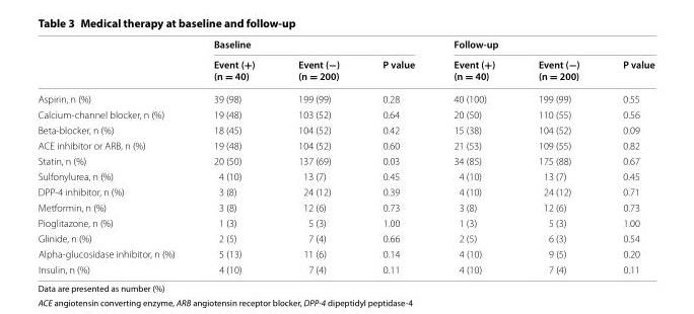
<table><thead><tr><td rowspan="2"></td><td colspan="3">Baseline</td><td colspan="3">Follow-up</td></tr><tr><td>Event (+) (n = 40)</td><td>Event (−) (n = 200)</td><td>P value</td><td>Event (+) (n = 40)</td><td>Event (−) (n = 200)</td><td>P value</td></tr></thead><tbody><tr><td>Aspirin, n (%)</td><td>39 (98)</td><td>199 (99)</td><td>0.28</td><td>40 (100)</td><td>199 (99)</td><td>0.55</td></tr><tr><td>Calcium-channel blocker, n (%)</td><td>19 (48)</td><td>103 (52)</td><td>0.64</td><td>20 (50)</td><td>110 (55)</td><td>0.56</td></tr><tr><td>Beta-blocker, n (%)</td><td>18 (45)</td><td>104 (52)</td><td>0.42</td><td>15 (38)</td><td>104 (52)</td><td>0.09</td></tr><tr><td>ACE inhibitor or ARB, n (%)</td><td>19 (48)</td><td>104 (52)</td><td>0.60</td><td>21 (53)</td><td>109 (55)</td><td>0.82</td></tr><tr><td>Statin, n (%)</td><td>20 (50)</td><td>137 (69)</td><td>0.03</td><td>34 (85)</td><td>175 (88)</td><td>0.67</td></tr><tr><td>Sulfonylurea, n (%)</td><td>4 (10)</td><td>13 (7)</td><td>0.45</td><td>4 (10)</td><td>13 (7)</td><td>0.45</td></tr><tr><td>DPP-4 inhibitor, n (%)</td><td>3 (8)</td><td>24 (12)</td><td>0.39</td><td>4 (10)</td><td>24 (12)</td><td>0.71</td></tr><tr><td>Metformin, n (%)</td><td>3 (8)</td><td>12 (6)</td><td>0.73</td><td>3 (8)</td><td>12 (6)</td><td>0.73</td></tr><tr><td>Pioglitazone, n (%)</td><td>1 (3)</td><td>5 (3)</td><td>1.00</td><td>1 (3)</td><td>5 (3)</td><td>1.00</td></tr><tr><td>Glinide, n (%)</td><td>2 (5)</td><td>7 (4)</td><td>0.66</td><td>2 (5)</td><td>6 (3)</td><td>0.54</td></tr><tr><td>Alpha-glucosidase inhibitor, n (%)</td><td>5 (13)</td><td>11 (6)</td><td>0.14</td><td>4 (10)</td><td>9 (5)</td><td>0.20</td></tr><tr><td>Insulin, n (%)</td><td>4 (10)</td><td>7 (4)</td><td>0.11</td><td>4 (10)</td><td>7 (4)</td><td>0.11</td></tr></tbody></table>